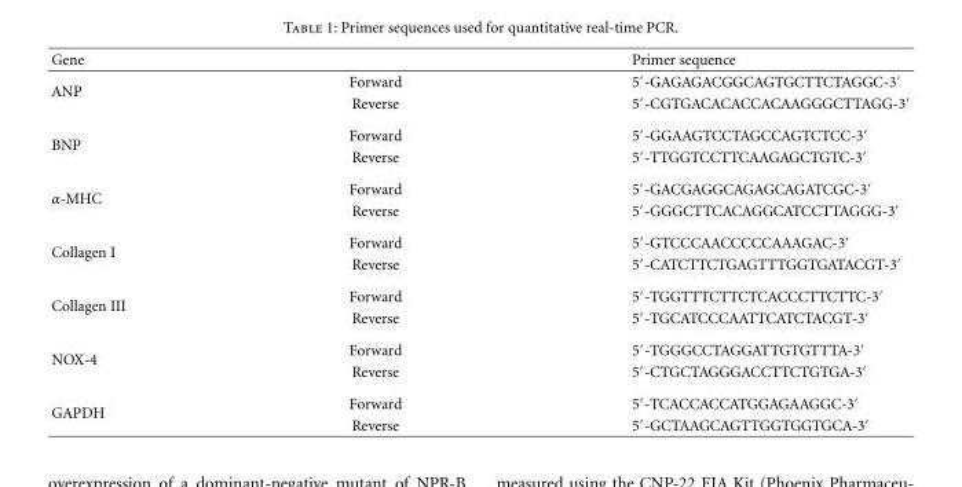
<table><thead><tr><td>Gene</td><td></td><td>Primer sequence</td></tr></thead><tbody><tr><td rowspan="2">ANP</td><td>Forward</td><td>5′-GAGAGACGGCAGTGCTTCTAGGC-3′</td></tr><tr><td>Reverse</td><td>5′-CGTGACACACCACAAGGGCTTAGG-3′</td></tr><tr><td rowspan="2">BNP</td><td>Forward</td><td>5′-GGAAGTCCTAGCCAGTCTCC-3′</td></tr><tr><td>Reverse</td><td>5′-TTGGTCCTTCAAGAGCTGTC-3′</td></tr><tr><td rowspan="2">α-MHC</td><td>Forward</td><td>5′-GACGAGGCAGAGCAGATCGC-3′</td></tr><tr><td>Reverse</td><td>5′-GGGCTTCACAGGCATCCTTAGGG-3′</td></tr><tr><td rowspan="2">Collagen I</td><td>Forward</td><td>5′-GTCCCAACCCCCAAAGAC-3′</td></tr><tr><td>Reverse</td><td>5′-CATCTTCTGAGTTTGGTGATACGT-3′</td></tr><tr><td rowspan="2">Collagen III</td><td>Forward</td><td>5′-TGGTTTCTTCTCACCCTTCTTC-3′</td></tr><tr><td>Reverse</td><td>5′-TGCATCCCAATTCATCTACGT-3′</td></tr><tr><td rowspan="2">NOX-4</td><td>Forward</td><td>5′-TGGGCCTAGGATTGTGTTTA-3′</td></tr><tr><td>Reverse</td><td>5′-CTGCTAGGGACCTTCTGTGA-3′</td></tr><tr><td rowspan="2">GAPDH</td><td>Forward</td><td>5′-TCACCACCATGGAGAAGGC-3′</td></tr><tr><td>Reverse</td><td>5′-GCTAAGCAGTTGGTGGTGCA-3′</td></tr></tbody></table>